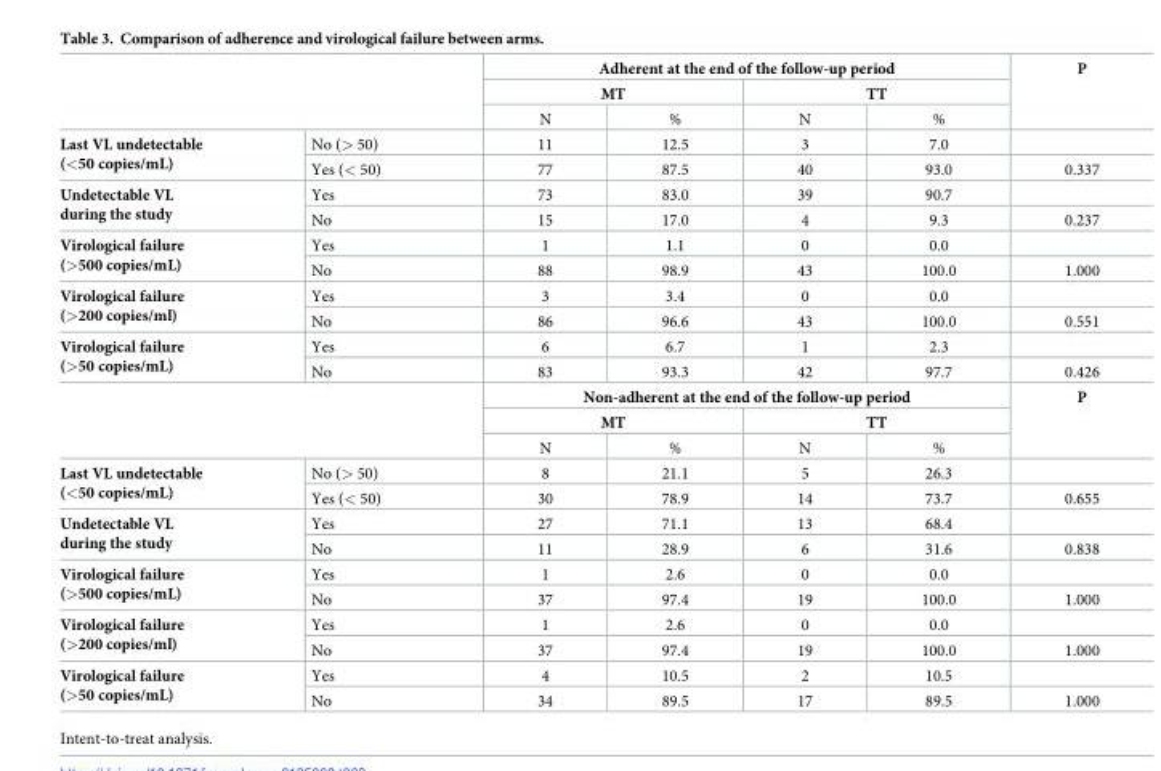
<table><thead><tr><td rowspan="3"></td><td rowspan="3"></td><td colspan="4">Adherent at the end of the follow-up period</td><td rowspan="3">P</td></tr><tr><td colspan="2">MT</td><td colspan="2">TT</td></tr><tr><td>N</td><td>%</td><td>N</td><td>%</td></tr></thead><tbody><tr><td rowspan="2">Last VL undetectable (&lt;50 copies/mL)</td><td>No (&gt; 50)</td><td>11</td><td>12.5</td><td>3</td><td>7.0</td><td></td></tr><tr><td>Yes (&lt; 50)</td><td>77</td><td>87.5</td><td>40</td><td>93.0</td><td>0.337</td></tr><tr><td rowspan="2">Undetectable VL during the study</td><td>Yes</td><td>73</td><td>83.0</td><td>39</td><td>90.7</td><td></td></tr><tr><td>No</td><td>15</td><td>17.0</td><td>4</td><td>9.3</td><td>0.237</td></tr><tr><td rowspan="2">Virological failure (&gt;500 copies/mL)</td><td>Yes</td><td>1</td><td>1.1</td><td>0</td><td>0.0</td><td></td></tr><tr><td>No</td><td>88</td><td>98.9</td><td>43</td><td>100.0</td><td>1.000</td></tr><tr><td rowspan="2">Virological failure (&gt;200 copies/ml)</td><td>Yes</td><td>3</td><td>3.4</td><td>0</td><td>0.0</td><td></td></tr><tr><td>No</td><td>86</td><td>96.6</td><td>43</td><td>100.0</td><td>0.551</td></tr><tr><td rowspan="2">Virological failure (&gt;50 copies/mL)</td><td>Yes</td><td>6</td><td>6.7</td><td>1</td><td>2.3</td><td></td></tr><tr><td>No</td><td>83</td><td>93.3</td><td>42</td><td>97.7</td><td>0.426</td></tr><tr><td rowspan="3" colspan="2"></td><td colspan="4">Non-adherent at the end of the follow-up period</td><td rowspan="3">P</td></tr><tr><td colspan="2">MT</td><td colspan="2">TT</td></tr><tr><td>N</td><td>%</td><td>N</td><td>%</td></tr><tr><td rowspan="2">Last VL undetectable (&lt;50 copies/mL)</td><td>No (&gt; 50)</td><td>8</td><td>21.1</td><td>5</td><td>26.3</td><td></td></tr><tr><td>Yes (&lt; 50)</td><td>30</td><td>78.9</td><td>14</td><td>73.7</td><td>0.655</td></tr><tr><td rowspan="2">Undetectable VL during the study</td><td>Yes</td><td>27</td><td>71.1</td><td>13</td><td>68.4</td><td></td></tr><tr><td>No</td><td>11</td><td>28.9</td><td>6</td><td>31.6</td><td>0.838</td></tr><tr><td rowspan="2">Virological failure (&gt;500 copies/mL)</td><td>Yes</td><td>1</td><td>2.6</td><td>0</td><td>0.0</td><td></td></tr><tr><td>No</td><td>37</td><td>97.4</td><td>19</td><td>100.0</td><td>1.000</td></tr><tr><td rowspan="2">Virological failure (&gt;200 copies/ml)</td><td>Yes</td><td>1</td><td>2.6</td><td>0</td><td>0.0</td><td></td></tr><tr><td>No</td><td>37</td><td>97.4</td><td>19</td><td>100.0</td><td>1.000</td></tr><tr><td rowspan="2">Virological failure (&gt;50 copies/mL)</td><td>Yes</td><td>4</td><td>10.5</td><td>2</td><td>10.5</td><td></td></tr><tr><td>No</td><td>34</td><td>89.5</td><td>17</td><td>89.5</td><td>1.000</td></tr></tbody></table>